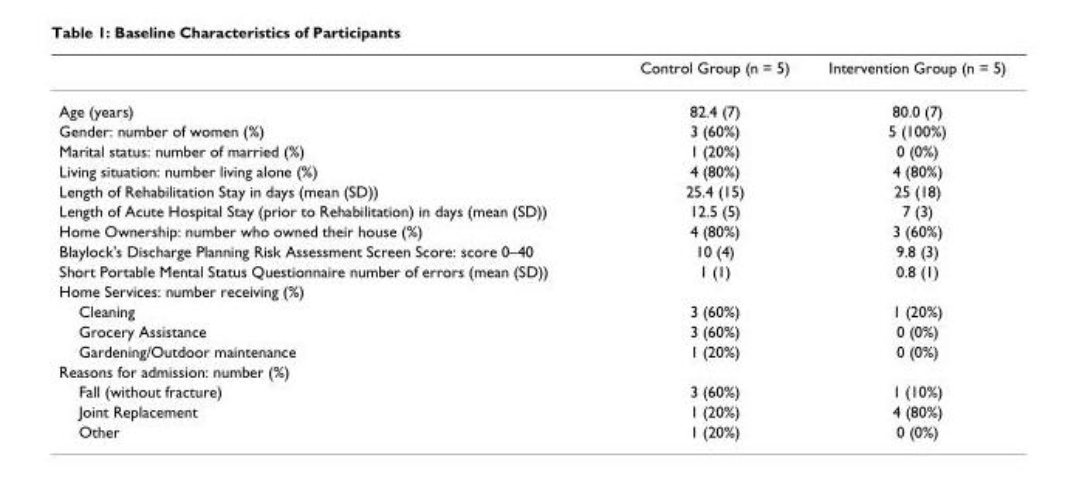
<table><thead><tr><td></td><td>Control Group (n = 5)</td><td>Intervention Group (n = 5)</td></tr></thead><tbody><tr><td>Age (years)</td><td>82.4 (7)</td><td>80.0 (7)</td></tr><tr><td>Gender: number of women (%)</td><td>3 (60%)</td><td>5 (100%)</td></tr><tr><td>Marital status: number of married (%)</td><td>1 (20%)</td><td>0 (0%)</td></tr><tr><td>Living situation: number living alone (%)</td><td>4 (80%)</td><td>4 (80%)</td></tr><tr><td>Length of Rehabilitation Stay in days (mean (SD))</td><td>25.4 (15)</td><td>25 (18)</td></tr><tr><td>Length of Acute Hospital Stay (prior to Rehabilitation) in days (mean (SD))</td><td>12.5 (5)</td><td>7 (3)</td></tr><tr><td>Home Ownership: number who owned their house (%)</td><td>4 (80%)</td><td>3 (60%)</td></tr><tr><td>Blaylock&#x27;s Discharge Planning Risk Assessment Screen Score: score 0–40</td><td>10 (4)</td><td>9.8 (3)</td></tr><tr><td>Short Portable Mental Status Questionnaire number of errors (mean (SD))</td><td>1 (1)</td><td>0.8 (1)</td></tr><tr><td colspan="3">Home Services: number receiving (%)</td></tr><tr><td>Cleaning</td><td>3 (60%)</td><td>1 (20%)</td></tr><tr><td>Grocery Assistance</td><td>3 (60%)</td><td>0 (0%)</td></tr><tr><td>Gardening/Outdoor maintenance</td><td>1 (20%)</td><td>0 (0%)</td></tr><tr><td colspan="3">Reasons for admission: number (%)</td></tr><tr><td>Fall (without fracture)</td><td>3 (60%)</td><td>1 (10%)</td></tr><tr><td>Joint Replacement</td><td>1 (20%)</td><td>4 (80%)</td></tr><tr><td>Other</td><td>1 (20%)</td><td>0 (0%)</td></tr></tbody></table>